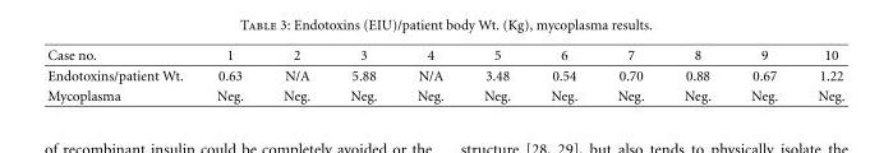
<table><thead><tr><td>Case no.</td><td>1</td><td>2</td><td>3</td><td>4</td><td>5</td><td>6</td><td>7</td><td>8</td><td>9</td><td>10</td></tr></thead><tbody><tr><td>Endotoxins/patient Wt.</td><td>0.63</td><td>N/A</td><td>5.88</td><td>N/A</td><td>3.48</td><td>0.54</td><td>0.70</td><td>0.88</td><td>0.67</td><td>1.22</td></tr><tr><td>Mycoplasma</td><td>Neg.</td><td>Neg.</td><td>Neg.</td><td>Neg.</td><td>Neg.</td><td>Neg.</td><td>Neg.</td><td>Neg.</td><td>Neg.</td><td>Neg.</td></tr></tbody></table>